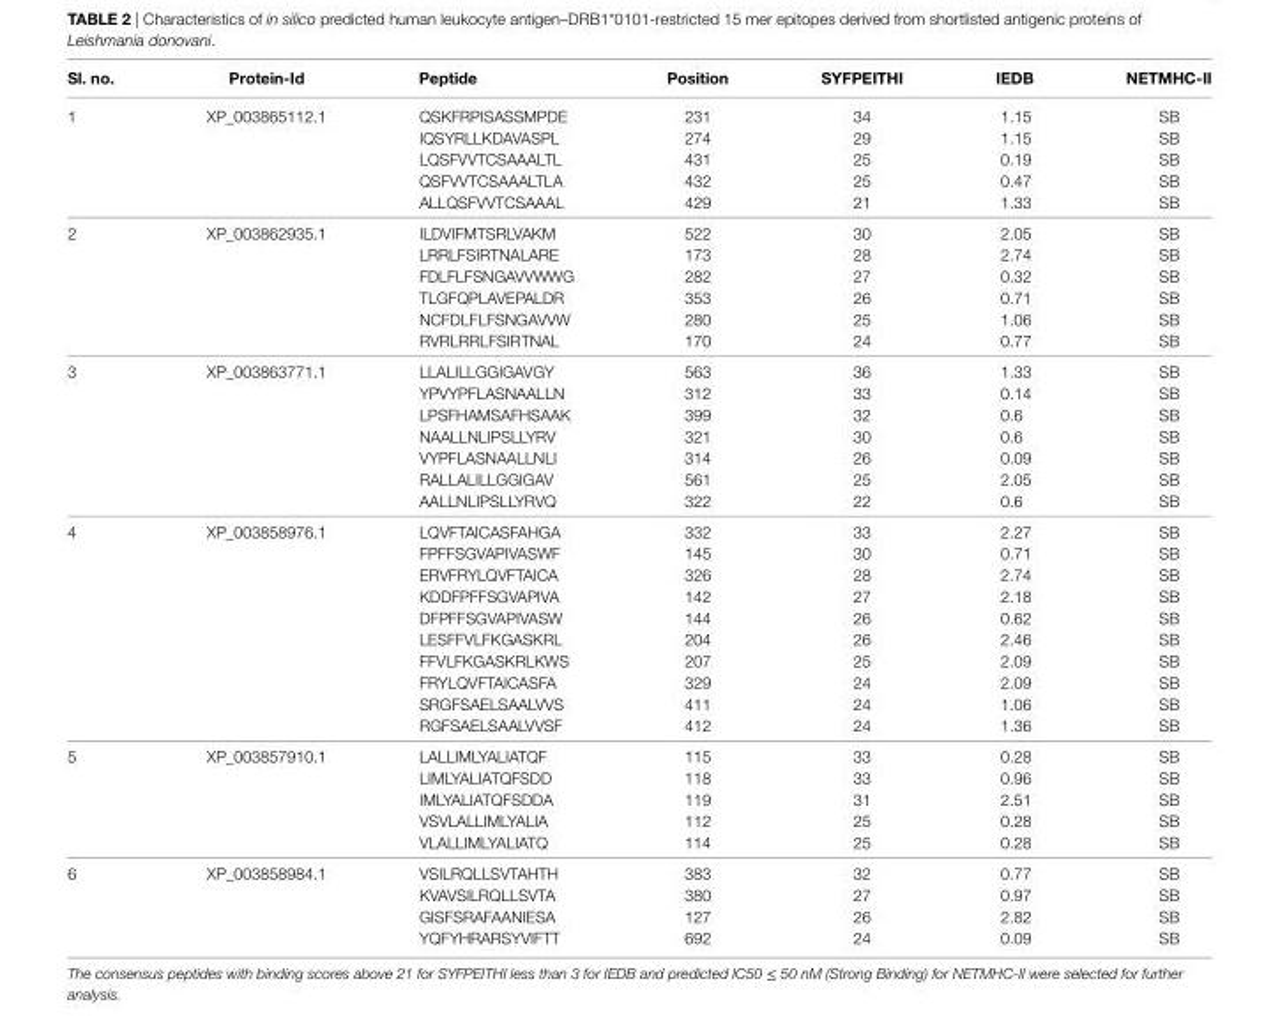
<table><thead><tr><td>sl. no.</td><td>Protein-id</td><td>Peptide</td><td>Position</td><td>sYFPeiThi</td><td>ieDB</td><td>neTMhc-ii</td></tr></thead><tbody><tr><td rowspan="5">1</td><td>XP_003865112.1</td><td>QSKFRPISASSMPDE</td><td>231</td><td>34</td><td>1.15</td><td>SB</td></tr><tr><td></td><td>IQSYRLLKDAVASPL</td><td>274</td><td>29</td><td>1.15</td><td>SB</td></tr><tr><td></td><td>LQSFVVTCSAAALTL</td><td>431</td><td>25</td><td>0.19</td><td>SB</td></tr><tr><td></td><td>QSFVVTCSAAALTLA</td><td>432</td><td>25</td><td>0.47</td><td>SB</td></tr><tr><td></td><td>ALLQSFVVTCSAAAL</td><td>429</td><td>21</td><td>1.33</td><td>SB</td></tr><tr><td rowspan="6">2</td><td>XP_003862935.1</td><td>ILDVIFMTSRLVAKM</td><td>522</td><td>30</td><td>2.05</td><td>SB</td></tr><tr><td></td><td>LRRLFSIRTNALARE</td><td>173</td><td>28</td><td>2.74</td><td>SB</td></tr><tr><td></td><td>FDLFLFSNGAVVWWG</td><td>282</td><td>27</td><td>0.32</td><td>SB</td></tr><tr><td></td><td>TLGFQPLAVEPALDR</td><td>353</td><td>26</td><td>0.71</td><td>SB</td></tr><tr><td></td><td>NCFDLFLFSNGAVVW</td><td>280</td><td>25</td><td>1.06</td><td>SB</td></tr><tr><td></td><td>RVRLRRLFSIRTNAL</td><td>170</td><td>24</td><td>0.77</td><td>SB</td></tr><tr><td rowspan="7">3</td><td>XP_003863771.1</td><td>LLALILLGGIGAVGY</td><td>563</td><td>36</td><td>1.33</td><td>SB</td></tr><tr><td></td><td>YPVYPFLASNAALLN</td><td>312</td><td>33</td><td>0.14</td><td>SB</td></tr><tr><td></td><td>LPSFHAMSAFHSAAK</td><td>399</td><td>32</td><td>0.6</td><td>SB</td></tr><tr><td></td><td>NAALLNLIPSLLYRV</td><td>321</td><td>30</td><td>0.6</td><td>SB</td></tr><tr><td></td><td>VYPFLASNAALLNLI</td><td>314</td><td>26</td><td>0.09</td><td>SB</td></tr><tr><td></td><td>RALLALILLGGIGAV</td><td>561</td><td>25</td><td>2.05</td><td>SB</td></tr><tr><td></td><td>AALLNLIPSLLYRVQ</td><td>322</td><td>22</td><td>0.6</td><td>SB</td></tr><tr><td rowspan="10">4</td><td>XP_003858976.1</td><td>LQVFTAICASFAHGA</td><td>332</td><td>33</td><td>2.27</td><td>SB</td></tr><tr><td></td><td>FPFFSGVAPIVASWF</td><td>145</td><td>30</td><td>0.71</td><td>SB</td></tr><tr><td></td><td>ERVFRYLQVFTAICA</td><td>326</td><td>28</td><td>2.74</td><td>SB</td></tr><tr><td></td><td>KDDFPFFSGVAPIVA</td><td>142</td><td>27</td><td>2.18</td><td>SB</td></tr><tr><td></td><td>DFPFFSGVAPIVASW</td><td>144</td><td>26</td><td>0.62</td><td>SB</td></tr><tr><td></td><td>LESFFVLFKGASKRL</td><td>204</td><td>26</td><td>2.46</td><td>SB</td></tr><tr><td></td><td>FFVLFKGASKRLKWS</td><td>207</td><td>25</td><td>2.09</td><td>SB</td></tr><tr><td></td><td>FRYLQVFTAICASFA</td><td>329</td><td>24</td><td>2.09</td><td>SB</td></tr><tr><td></td><td>SRGFSAELSAALVVS</td><td>411</td><td>24</td><td>1.06</td><td>SB</td></tr><tr><td></td><td>RGFSAELSAALVVSF</td><td>412</td><td>24</td><td>1.36</td><td>SB</td></tr><tr><td rowspan="5">5</td><td>XP_003857910.1</td><td>LALLIMLYALIATQF</td><td>115</td><td>33</td><td>0.28</td><td>SB</td></tr><tr><td></td><td>LIMLYALIATQFSDD</td><td>118</td><td>33</td><td>0.96</td><td>SB</td></tr><tr><td></td><td>IMLYALIATQFSDDA</td><td>119</td><td>31</td><td>2.51</td><td>SB</td></tr><tr><td></td><td>VSVLALLIMLYALIA</td><td>112</td><td>25</td><td>0.28</td><td>SB</td></tr><tr><td></td><td>VLALLIMLYALIATQ</td><td>114</td><td>25</td><td>0.28</td><td>SB</td></tr><tr><td rowspan="4">6</td><td>XP_003858984.1</td><td>VSILRQLLSVTAHTH</td><td>383</td><td>32</td><td>0.77</td><td>SB</td></tr><tr><td></td><td>KVAVSILRQLLSVTA</td><td>380</td><td>27</td><td>0.97</td><td>SB</td></tr><tr><td></td><td>GISFSRAFAANIESA</td><td>127</td><td>26</td><td>2.82</td><td>SB</td></tr><tr><td></td><td>YQFYHRARSYVIFTT</td><td>692</td><td>24</td><td>0.09</td><td>SB</td></tr></tbody></table>